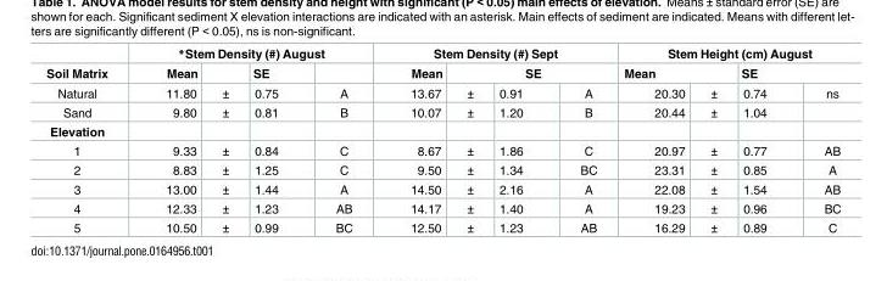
<table><thead><tr><td rowspan="3">Soil Matrix Natural</td><td colspan="4">*Stem Density (#) August</td><td colspan="4">Stem Density (#) Sept</td><td colspan="4">Stem Height (cm) August</td></tr><tr><td rowspan="2">Mean 11.80</td><td rowspan="2">±</td><td rowspan="2">SE 0.75</td><td rowspan="2">A</td><td rowspan="2">Mean 13.67</td><td colspan="3">SE</td><td colspan="2">Mean</td><td colspan="2">SE</td></tr><tr><td>±</td><td>0.91</td><td>A</td><td>20.30</td><td>±</td><td>0.74</td><td>ns</td></tr></thead><tbody><tr><td>Sand</td><td>9.80</td><td>±</td><td>0.81</td><td>B</td><td>10.07</td><td>±</td><td>1.20</td><td>B</td><td>20.44</td><td>±</td><td>1.04</td><td></td></tr><tr><td colspan="13">Elevation</td></tr><tr><td>1</td><td>9.33</td><td>±</td><td>0.84</td><td>C</td><td>8.67</td><td>±</td><td>1.86</td><td>C</td><td>20.97</td><td>±</td><td>0.77</td><td>AB</td></tr><tr><td>2</td><td>8.83</td><td>±</td><td>1.25</td><td>C</td><td>9.50</td><td>±</td><td>1.34</td><td>BC</td><td>23.31</td><td>±</td><td>0.85</td><td>A</td></tr><tr><td>3</td><td>13.00</td><td>±</td><td>1.44</td><td>A</td><td>14.50</td><td>±</td><td>2.16</td><td>A</td><td>22.08</td><td>±</td><td>1.54</td><td>AB</td></tr><tr><td>4</td><td>12.33</td><td>±</td><td>1.23</td><td>AB</td><td>14.17</td><td>±</td><td>1.40</td><td>A</td><td>19.23</td><td>±</td><td>0.96</td><td>BC</td></tr><tr><td>5</td><td>10.50</td><td>±</td><td>0.99</td><td>BC</td><td>12.50</td><td>±</td><td>1.23</td><td>AB</td><td>16.29</td><td>±</td><td>0.89</td><td>C</td></tr></tbody></table>